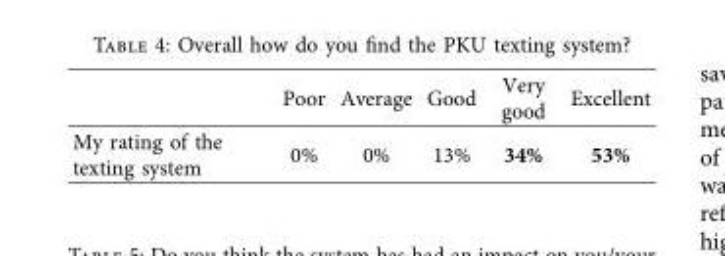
<table><thead><tr><td></td><td>Poor</td><td>Average</td><td>Good</td><td>Very good</td><td>Excellent</td></tr></thead><tbody><tr><td>My rating of the texting system</td><td>0%</td><td>0%</td><td>13%</td><td>34%</td><td>53%</td></tr></tbody></table>